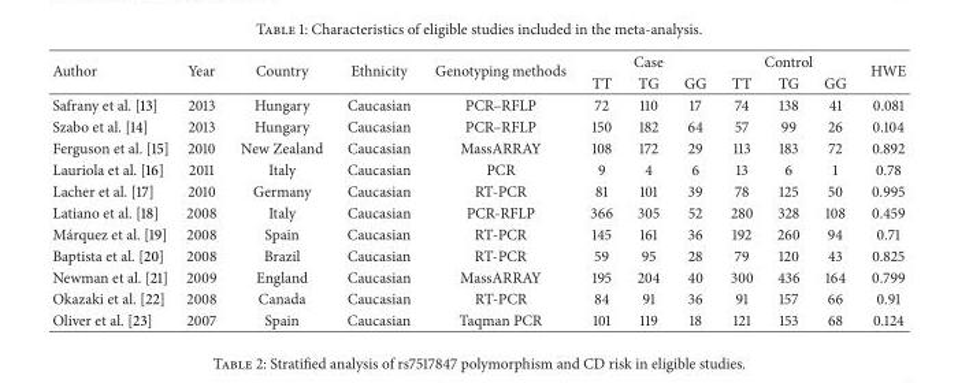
<table><thead><tr><td rowspan="2">Author</td><td rowspan="2">Year</td><td rowspan="2">Country</td><td rowspan="2">Ethnicity</td><td rowspan="2">Genotyping methods</td><td colspan="3">Case</td><td colspan="3">Control</td><td rowspan="2">HWE</td></tr><tr><td>TT</td><td>TG</td><td>GG</td><td>TT</td><td>TG</td><td>GG</td></tr></thead><tbody><tr><td>Safrany et al. [13]</td><td>2013</td><td>Hungary</td><td>Caucasian</td><td>PCR–RFLP</td><td>72</td><td>110</td><td>17</td><td>74</td><td>138</td><td>41</td><td>0.081</td></tr><tr><td>Szabo et al. [14]</td><td>2013</td><td>Hungary</td><td>Caucasian</td><td>PCR–RFLP</td><td>150</td><td>182</td><td>64</td><td>57</td><td>99</td><td>26</td><td>0.104</td></tr><tr><td>Ferguson et al. [15]</td><td>2010</td><td>New Zealand</td><td>Caucasian</td><td>MassARRAY</td><td>108</td><td>172</td><td>29</td><td>113</td><td>183</td><td>72</td><td>0.892</td></tr><tr><td>Lauriola et al. [16]</td><td>2011</td><td>Italy</td><td>Caucasian</td><td>PCR</td><td>9</td><td>4</td><td>6</td><td>13</td><td>6</td><td>1</td><td>0.78</td></tr><tr><td>Lacher et al. [17]</td><td>2010</td><td>Germany</td><td>Caucasian</td><td>RT-PCR</td><td>81</td><td>101</td><td>39</td><td>78</td><td>125</td><td>50</td><td>0.995</td></tr><tr><td>Latiano et al. [18]</td><td>2008</td><td>Italy</td><td>Caucasian</td><td>PCR-RFLP</td><td>366</td><td>305</td><td>52</td><td>280</td><td>328</td><td>108</td><td>0.459</td></tr><tr><td>M´arquez et al. [19]</td><td>2008</td><td>Spain</td><td>Caucasian</td><td>RT-PCR</td><td>145</td><td>161</td><td>36</td><td>192</td><td>260</td><td>94</td><td>0.71</td></tr><tr><td>Baptista et al. [20]</td><td>2008</td><td>Brazil</td><td>Caucasian</td><td>RT-PCR</td><td>59</td><td>95</td><td>28</td><td>79</td><td>120</td><td>43</td><td>0.825</td></tr><tr><td>Newman et al. [21]</td><td>2009</td><td>England</td><td>Caucasian</td><td>MassARRAY</td><td>195</td><td>204</td><td>40</td><td>300</td><td>436</td><td>164</td><td>0.799</td></tr><tr><td>Okazaki et al. [22]</td><td>2008</td><td>Canada</td><td>Caucasian</td><td>RT-PCR</td><td>84</td><td>91</td><td>36</td><td>91</td><td>157</td><td>66</td><td>0.91</td></tr><tr><td>Oliver et al. [23]</td><td>2007</td><td>Spain</td><td>Caucasian</td><td>Taqman PCR</td><td>101</td><td>119</td><td>18</td><td>121</td><td>153</td><td>68</td><td>0.124</td></tr></tbody></table>